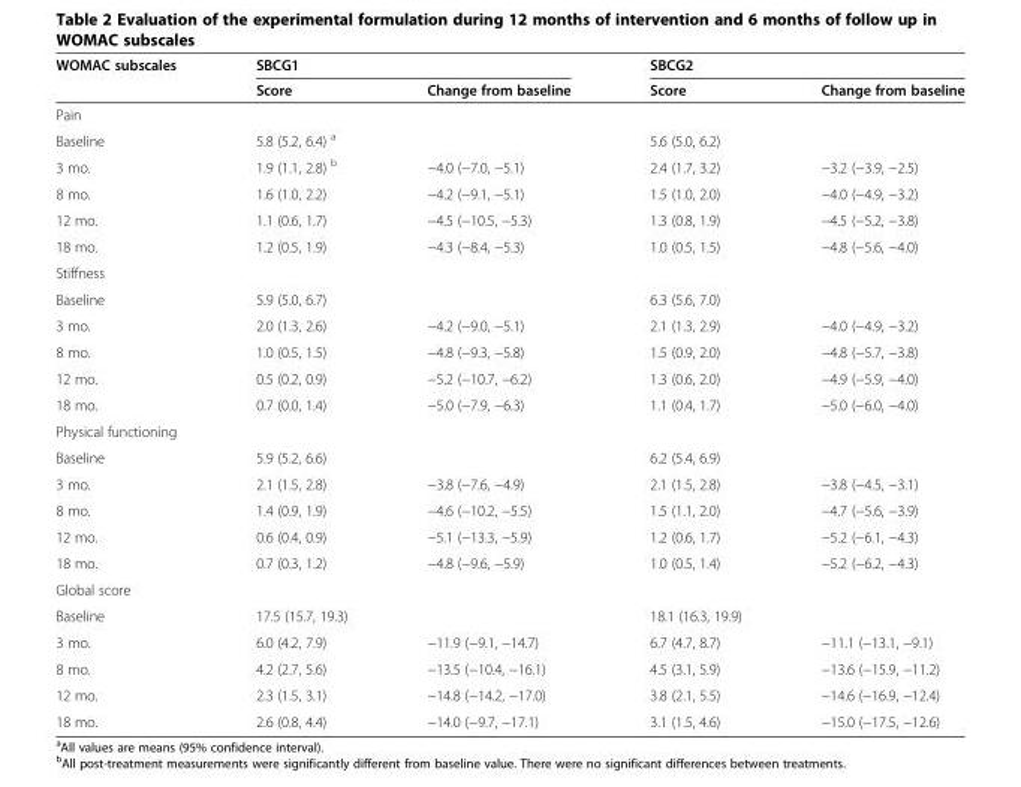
<table><thead><tr><td rowspan="2">WOMAC subscales</td><td colspan="2">SBCG1</td><td colspan="2">SBCG2</td></tr><tr><td>Score</td><td>Change from baseline</td><td>Score</td><td>Change from baseline</td></tr></thead><tbody><tr><td colspan="5">Pain</td></tr><tr><td>Baseline</td><td>5.8 (5.2, 6.4) <sup>a</sup></td><td></td><td>5.6 (5.0, 6.2)</td><td></td></tr><tr><td>3 mo.</td><td>1.9 (1.1, 2.8) <sup>b</sup></td><td>−4.0 (−7.0, −5.1)</td><td>2.4 (1.7, 3.2)</td><td>−3.2 (−3.9, −2.5)</td></tr><tr><td>8 mo.</td><td>1.6 (1.0, 2.2)</td><td>−4.2 (−9.1, −5.1)</td><td>1.5 (1.0, 2.0)</td><td>−4.0 (−4.9, −3.2)</td></tr><tr><td>12 mo.</td><td>1.1 (0.6, 1.7)</td><td>−4.5 (−10.5, −5.3)</td><td>1.3 (0.8, 1.9)</td><td>−4.5 (−5.2, −3.8)</td></tr><tr><td>18 mo.</td><td>1.2 (0.5, 1.9)</td><td>−4.3 (−8.4, −5.3)</td><td>1.0 (0.5, 1.5)</td><td>−4.8 (−5.6, −4.0)</td></tr><tr><td colspan="5">Stiffness</td></tr><tr><td>Baseline</td><td>5.9 (5.0, 6.7)</td><td></td><td>6.3 (5.6, 7.0)</td><td></td></tr><tr><td>3 mo.</td><td>2.0 (1.3, 2.6)</td><td>−4.2 (−9.0, −5.1)</td><td>2.1 (1.3, 2.9)</td><td>−4.0 (−4.9, −3.2)</td></tr><tr><td>8 mo.</td><td>1.0 (0.5, 1.5)</td><td>−4.8 (−9.3, −5.8)</td><td>1.5 (0.9, 2.0)</td><td>−4.8 (−5.7, −3.8)</td></tr><tr><td>12 mo.</td><td>0.5 (0.2, 0.9)</td><td>−5.2 (−10.7, −6.2)</td><td>1.3 (0.6, 2.0)</td><td>−4.9 (−5.9, −4.0)</td></tr><tr><td>18 mo.</td><td>0.7 (0.0, 1.4)</td><td>−5.0 (−7.9, −6.3)</td><td>1.1 (0.4, 1.7)</td><td>−5.0 (−6.0, −4.0)</td></tr><tr><td colspan="5">Physical functioning</td></tr><tr><td>Baseline</td><td>5.9 (5.2, 6.6)</td><td></td><td>6.2 (5.4, 6.9)</td><td></td></tr><tr><td>3 mo.</td><td>2.1 (1.5, 2.8)</td><td>−3.8 (−7.6, −4.9)</td><td>2.1 (1.5, 2.8)</td><td>−3.8 (−4.5, −3.1)</td></tr><tr><td>8 mo.</td><td>1.4 (0.9, 1.9)</td><td>−4.6 (−10.2, −5.5)</td><td>1.5 (1.1, 2.0)</td><td>−4.7 (−5.6, −3.9)</td></tr><tr><td>12 mo.</td><td>0.6 (0.4, 0.9)</td><td>−5.1 (−13.3, −5.9)</td><td>1.2 (0.6, 1.7)</td><td>−5.2 (−6.1, −4.3)</td></tr><tr><td>18 mo.</td><td>0.7 (0.3, 1.2)</td><td>−4.8 (−9.6, −5.9)</td><td>1.0 (0.5, 1.4)</td><td>−5.2 (−6.2, −4.3)</td></tr><tr><td colspan="5">Global score</td></tr><tr><td>Baseline</td><td>17.5 (15.7, 19.3)</td><td></td><td>18.1 (16.3, 19.9)</td><td></td></tr><tr><td>3 mo.</td><td>6.0 (4.2, 7.9)</td><td>−11.9 (−9.1, −14.7)</td><td>6.7 (4.7, 8.7)</td><td>−11.1 (−13.1, −9.1)</td></tr><tr><td>8 mo.</td><td>4.2 (2.7, 5.6)</td><td>−13.5 (−10.4, −16.1)</td><td>4.5 (3.1, 5.9)</td><td>−13.6 (−15.9, −11.2)</td></tr><tr><td>12 mo.</td><td>2.3 (1.5, 3.1)</td><td>−14.8 (−14.2, −17.0)</td><td>3.8 (2.1, 5.5)</td><td>−14.6 (−16.9, −12.4)</td></tr><tr><td>18 mo.</td><td>2.6 (0.8, 4.4)</td><td>−14.0 (−9.7, −17.1)</td><td>3.1 (1.5, 4.6)</td><td>−15.0 (−17.5, −12.6)</td></tr></tbody></table>